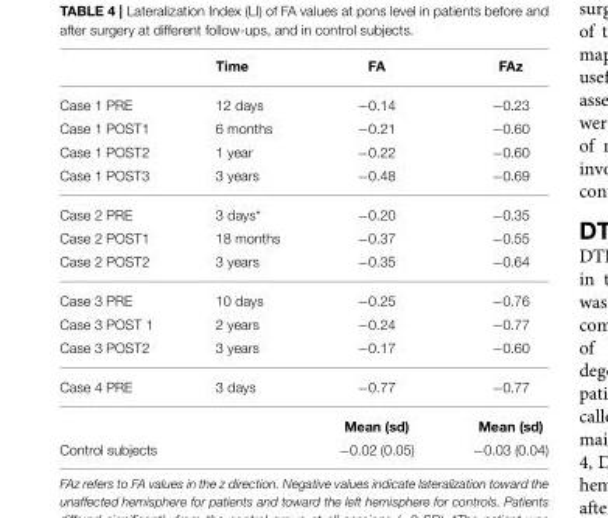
<table><thead><tr><td></td><td>Time</td><td>FA</td><td>FAz</td></tr></thead><tbody><tr><td>Case 1 PRE</td><td>12 days</td><td>−0.14</td><td>−0.23</td></tr><tr><td>Case 1 POST1</td><td>6 months</td><td>−0.21</td><td>−0.60</td></tr><tr><td>Case 1 POST2</td><td>1 year</td><td>−0.22</td><td>−0.60</td></tr><tr><td>Case 1 POST3</td><td>3 years</td><td>−0.48</td><td>−0.69</td></tr><tr><td>Case 2 PRE</td><td>3 days*</td><td>−0.20</td><td>−0.35</td></tr><tr><td>Case 2 POST1</td><td>18 months</td><td>−0.37</td><td>−0.55</td></tr><tr><td>Case 2 POST2</td><td>3 years</td><td>−0.35</td><td>−0.64</td></tr><tr><td>Case 3 PRE</td><td>10 days</td><td>−0.25</td><td>−0.76</td></tr><tr><td>Case 3 POST 1</td><td>2 years</td><td>−0.24</td><td>−0.77</td></tr><tr><td>Case 3 POST2</td><td>3 years</td><td>−0.17</td><td>−0.60</td></tr><tr><td rowspan="2">Case 4 PRE</td><td>3 days</td><td>−0.77</td><td>−0.77</td></tr><tr><td></td><td>Mean (sd)</td><td>Mean (sd)</td></tr><tr><td>Control subjects</td><td></td><td>−0.02 (0.05)</td><td>−0.03 (0.04)</td></tr></tbody></table>